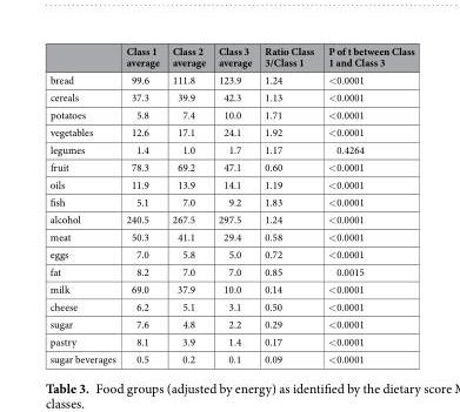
<table><thead><tr><td></td><td>Class 1 average</td><td>Class 2 average</td><td>Class 3 average</td><td>Ratio Class 3/Class 1</td><td>P of t between Class 1 and Class 3</td></tr></thead><tbody><tr><td>bread</td><td>99.6</td><td>111.8</td><td>123.9</td><td>1.24</td><td>&lt;0.0001</td></tr><tr><td>cereals</td><td>37.3</td><td>39.9</td><td>42.3</td><td>1.13</td><td>&lt;0.0001</td></tr><tr><td>potatoes</td><td>5.8</td><td>7.4</td><td>10.0</td><td>1.71</td><td>&lt;0.0001</td></tr><tr><td>vegetables</td><td>12.6</td><td>17.1</td><td>24.1</td><td>1.92</td><td>&lt;0.0001</td></tr><tr><td>legumes</td><td>1.4</td><td>1.0</td><td>1.7</td><td>1.17</td><td>0.4264</td></tr><tr><td>fruit</td><td>78.3</td><td>69.2</td><td>47.1</td><td>0.60</td><td>&lt;0.0001</td></tr><tr><td>oils</td><td>11.9</td><td>13.9</td><td>14.1</td><td>1.19</td><td>&lt;0.0001</td></tr><tr><td>fish</td><td>5.1</td><td>7.0</td><td>9.2</td><td>1.83</td><td>&lt;0.0001</td></tr><tr><td>alcohol</td><td>240.5</td><td>267.5</td><td>297.5</td><td>1.24</td><td>&lt;0.0001</td></tr><tr><td>meat</td><td>50.3</td><td>41.1</td><td>29.4</td><td>0.58</td><td>&lt;0.0001</td></tr><tr><td>eggs</td><td>7.0</td><td>5.8</td><td>5.0</td><td>0.72</td><td>&lt;0.0001</td></tr><tr><td>fat</td><td>8.2</td><td>7.0</td><td>7.0</td><td>0.85</td><td>0.0015</td></tr><tr><td>milk</td><td>69.0</td><td>37.9</td><td>10.0</td><td>0.14</td><td>&lt;0.0001</td></tr><tr><td>cheese</td><td>6.2</td><td>5.1</td><td>3.1</td><td>0.50</td><td>&lt;0.0001</td></tr><tr><td>sugar</td><td>7.6</td><td>4.8</td><td>2.2</td><td>0.29</td><td>&lt;0.0001</td></tr><tr><td>pastry</td><td>8.1</td><td>3.9</td><td>1.4</td><td>0.17</td><td>&lt;0.0001</td></tr><tr><td>sugar beverages</td><td>0.5</td><td>0.2</td><td>0.1</td><td>0.09</td><td>&lt;0.0001</td></tr></tbody></table>